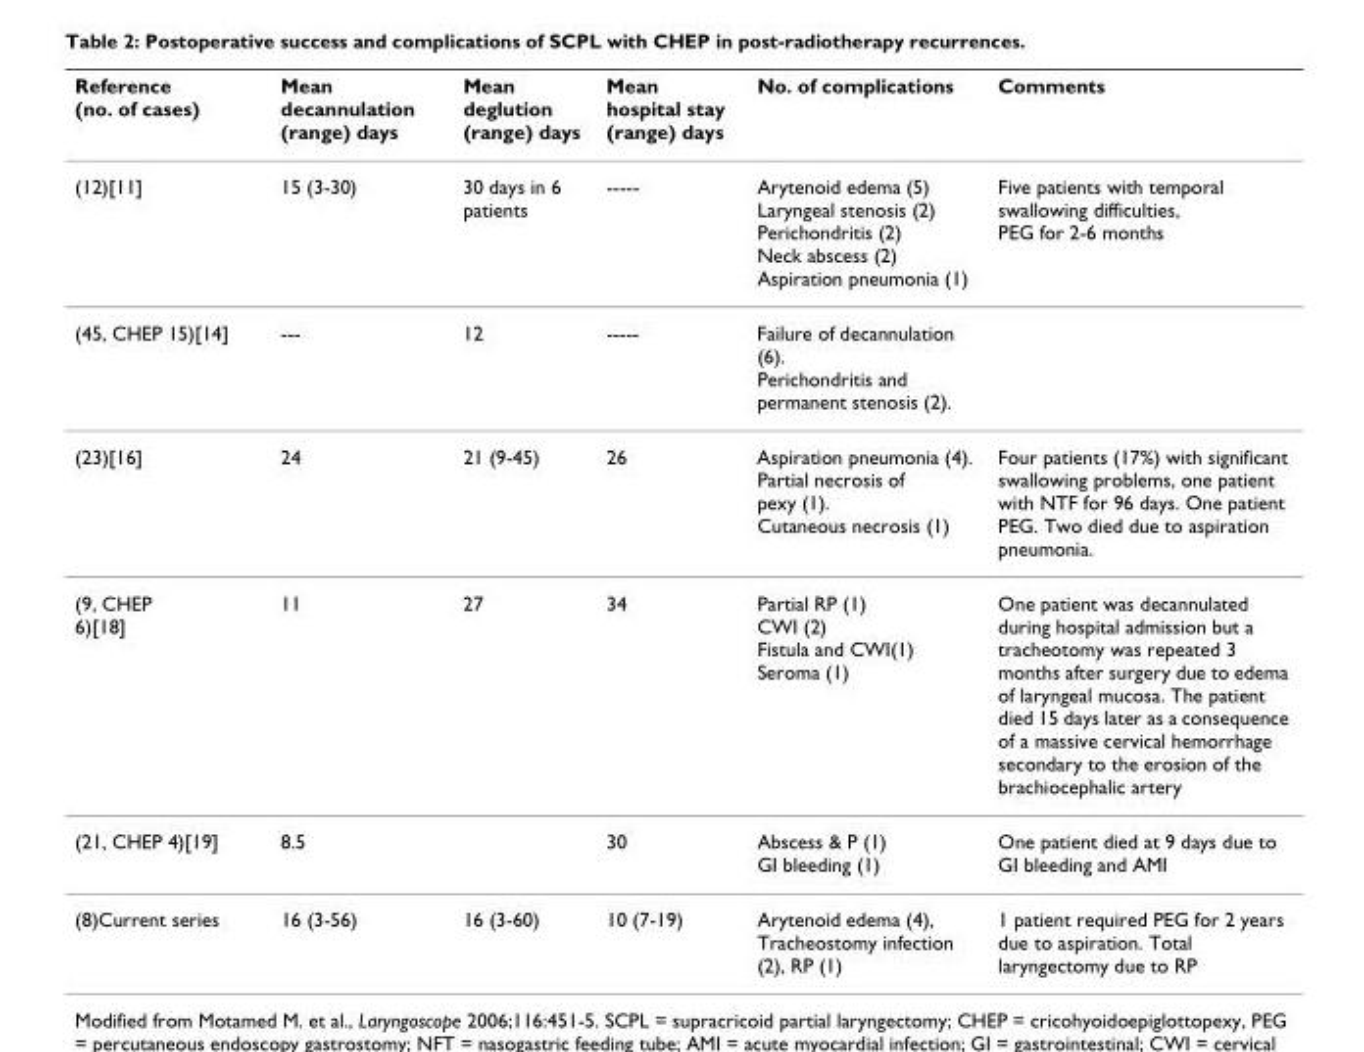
<table><thead><tr><td>Reference (no. of cases)</td><td>Mean decannulation (range) days</td><td>Mean deglution (range) days</td><td>Mean hospital stay (range) days</td><td>No. of complications</td><td>Comments</td></tr></thead><tbody><tr><td>(12)[11]</td><td>15 (3-30)</td><td>30 days in 6 patients</td><td>-----</td><td>Arytenoid edema (5) Laryngeal stenosis (2) Perichondritis (2) Neck abscess (2) Aspiration pneumonia (1)</td><td>Five patients with temporal swallowing difficulties, PEG for 2-6 months</td></tr><tr><td>(45, CHEP 15)[14]</td><td>---</td><td>12</td><td>-----</td><td>Failure of decannulation (6). Perichondritis and permanent stenosis (2).</td><td></td></tr><tr><td>(23)[16]</td><td>24</td><td>21 (9-45)</td><td>26</td><td>Aspiration pneumonia (4). Partial necrosis of pexy (1). Cutaneous necrosis (1)</td><td>Four patients (17%) with significant swallowing problems, one patient with NTF for 96 days. One patient PEG. Two died due to aspiration pneumonia.</td></tr><tr><td>(9, CHEP 6)[18]</td><td>11</td><td>27</td><td>34</td><td>Partial RP (1) CWI (2) Fistula and CWI(1) Seroma (1)</td><td>One patient was decannulated during hospital admission but a tracheotomy was repeated 3 months after surgery due to edema of laryngeal mucosa. The patient died 15 days later as a consequence of a massive cervical hemorrhage secondary to the erosion of the brachiocephalic artery</td></tr><tr><td>(21, CHEP 4)[19]</td><td>8.5</td><td></td><td>30</td><td>Abscess &amp; P (1) GI bleeding (1)</td><td>One patient died at 9 days due to GI bleeding and AMI</td></tr><tr><td>(8)Current series</td><td>16 (3-56)</td><td>16 (3-60)</td><td>10 (7-19)</td><td>Arytenoid edema (4), Tracheostomy infection (2), RP (1)</td><td>1 patient required PEG for 2 years due to aspiration. Total laryngectomy due to RP</td></tr></tbody></table>